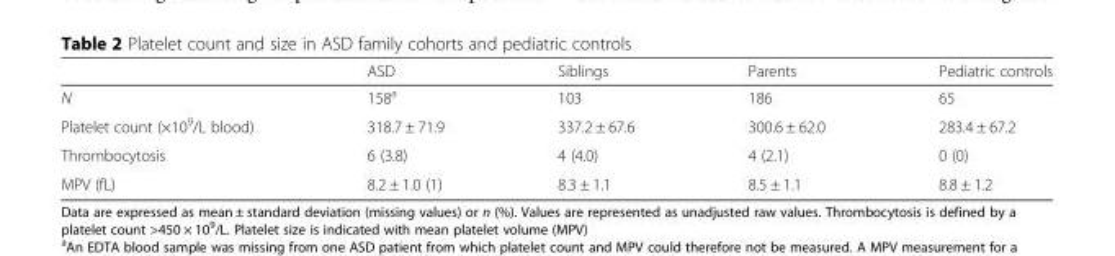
<table><thead><tr><td></td><td>ASD</td><td>Siblings</td><td>Parents</td><td>Pediatric controls</td></tr></thead><tbody><tr><td>N</td><td>158<sup>a</sup></td><td>103</td><td>186</td><td>65</td></tr><tr><td>Platelet count (×10<sup>9</sup>/L blood)</td><td>318.7 ± 71.9</td><td>337.2 ± 67.6</td><td>300.6 ± 62.0</td><td>283.4 ± 67.2</td></tr><tr><td>Thrombocytosis</td><td>6 (3.8)</td><td>4 (4.0)</td><td>4 (2.1)</td><td>0 (0)</td></tr><tr><td>MPV (fL)</td><td>8.2 ± 1.0 (1)</td><td>8.3 ± 1.1</td><td>8.5 ± 1.1</td><td>8.8 ± 1.2</td></tr></tbody></table>